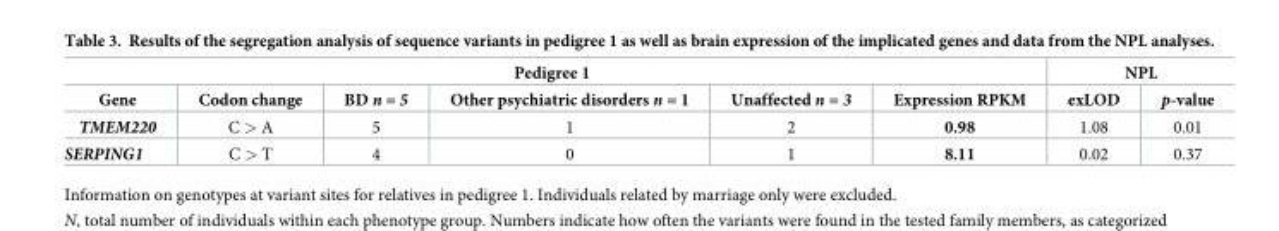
<table><thead><tr><td colspan="6">Pedigree 1</td><td colspan="2">NPL</td></tr><tr><td>Gene</td><td>Codon change</td><td>BD n = 5</td><td>Other psychiatric disorders n = 1</td><td>Unaffected n = 3</td><td>Expression RPKM</td><td>exLOD</td><td>p-value</td></tr></thead><tbody><tr><td>TMEM220</td><td>C &gt; A</td><td>5</td><td>1</td><td>2</td><td>0.98</td><td>1.08</td><td>0.01</td></tr><tr><td>SERPING1</td><td>C &gt; T</td><td>4</td><td>0</td><td>1</td><td>8.11</td><td>0.02</td><td>0.37</td></tr></tbody></table>